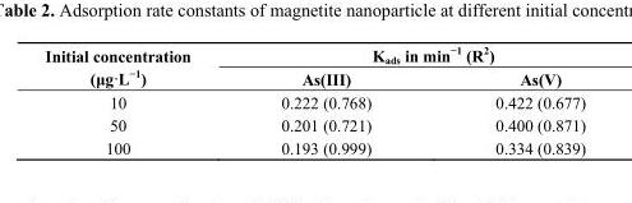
<table><thead><tr><td rowspan="2">Initial concentration (μg·L<sup>−1</sup>)</td><td colspan="2">K<sub>ads</sub> in min<sup>−1</sup> (R<sup>2</sup>)</td></tr><tr><td>As(III)</td><td>As(V)</td></tr></thead><tbody><tr><td>10</td><td>0.222 (0.768)</td><td>0.422 (0.677)</td></tr><tr><td>50</td><td>0.201 (0.721)</td><td>0.400 (0.871)</td></tr><tr><td>100</td><td>0.193 (0.999)</td><td>0.334 (0.839)</td></tr></tbody></table>